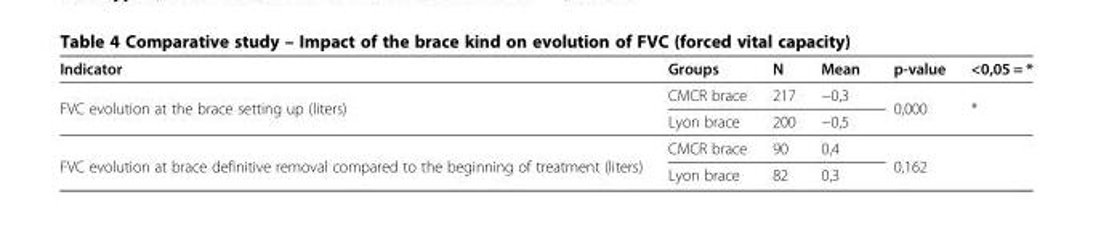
<table><thead><tr><td>Indicator</td><td>Groups</td><td>N</td><td>Mean</td><td>p-value</td><td>&lt;0,05 = *</td></tr></thead><tbody><tr><td rowspan="2">FVC evolution at the brace setting up (liters)</td><td>CMCR brace</td><td>217</td><td>−0,3</td><td rowspan="2">0,000</td><td rowspan="2">*</td></tr><tr><td>Lyon brace</td><td>200</td><td>−0,5</td></tr><tr><td rowspan="2">FVC evolution at brace definitive removal compared to the beginning of treatment (liters)</td><td>CMCR brace</td><td>90</td><td>0,4</td><td rowspan="2">0,162</td><td rowspan="2"></td></tr><tr><td>Lyon brace</td><td>82</td><td>0,3</td></tr></tbody></table>